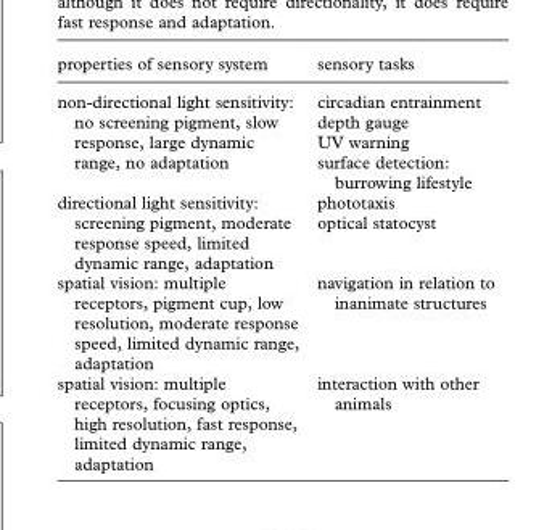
<table><thead><tr><td>properties of sensory system</td><td>sensory tasks</td></tr></thead><tbody><tr><td rowspan="4">non-directional light sensitivity: no screening pigment, slow response, large dynamic range, no adaptation</td><td>circadian entrainment</td></tr><tr><td>depth gauge</td></tr><tr><td>UV warning</td></tr><tr><td>surface detection: burrowing lifestyle</td></tr><tr><td rowspan="2">directional light sensitivity: screening pigment, moderate response speed, limited dynamic range, adaptation</td><td>phototaxis</td></tr><tr><td>optical statocyst</td></tr><tr><td>spatial vision: multiple receptors, pigment cup, low resolution, moderate response speed, limited dynamic range, adaptation</td><td>navigation in relation to inanimate structures</td></tr><tr><td>spatial vision: multiple receptors, focusing optics, high resolution, fast response, limited dynamic range, adaptation</td><td>interaction with other animals</td></tr></tbody></table>